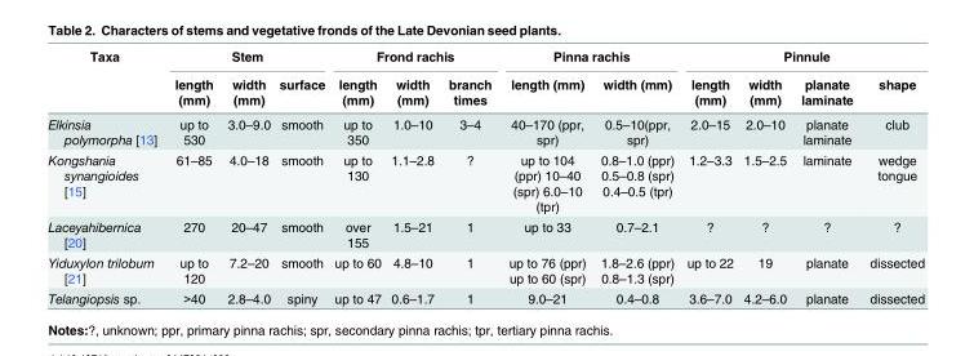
<table><thead><tr><td rowspan="2">Taxa</td><td colspan="3">Stem</td><td colspan="3">Frond rachis</td><td colspan="2">Pinna rachis</td><td colspan="4">Pinnule</td></tr><tr><td>length (mm)</td><td>width (mm)</td><td>surface</td><td>length (mm)</td><td>width (mm)</td><td>branch times</td><td>length (mm)</td><td>width (mm)</td><td>length (mm)</td><td>width (mm)</td><td>planate laminate</td><td>shape</td></tr></thead><tbody><tr><td>Elkinsia polymorpha [13]</td><td>up to 530</td><td>3.0–9.0</td><td>smooth</td><td>up to 350</td><td>1.0–10</td><td>3–4</td><td>40–170 (ppr, spr)</td><td>0.5–10(ppr, spr)</td><td>2.0–15</td><td>2.0–10</td><td>planate laminate</td><td>club</td></tr><tr><td>Kongshania synangioides [15]</td><td>61–85</td><td>4.0–18</td><td>smooth</td><td>up to 130</td><td>1.1–2.8</td><td>?</td><td>up to 104 (ppr) 10–40 (spr) 6.0–10 (tpr)</td><td>0.8–1.0 (ppr) 0.5–0.8 (spr) 0.4–0.5 (tpr)</td><td>1.2–3.3</td><td>1.5–2.5</td><td>laminate</td><td>wedge tongue</td></tr><tr><td>Laceyahibernica [20]</td><td>270</td><td>20–47</td><td>smooth</td><td>over 155</td><td>1.5–21</td><td>1</td><td>up to 33</td><td>0.7–2.1</td><td>?</td><td>?</td><td>?</td><td>?</td></tr><tr><td>Yiduxylon trilobum [21]</td><td>up to 120</td><td>7.2–20</td><td>smooth</td><td>up to 60</td><td>4.8–10</td><td>1</td><td>up to 76 (ppr) up to 60 (spr)</td><td>1.8–2.6 (ppr) 0.8–1.3 (spr)</td><td>up to 22</td><td>19</td><td>planate</td><td>dissected</td></tr><tr><td>Telangiopsis sp.</td><td>&gt;40</td><td>2.8–4.0</td><td>spiny</td><td>up to 47</td><td>0.6–1.7</td><td>1</td><td>9.0–21</td><td>0.4–0.8</td><td>3.6–7.0</td><td>4.2–6.0</td><td>planate</td><td>dissected</td></tr></tbody></table>